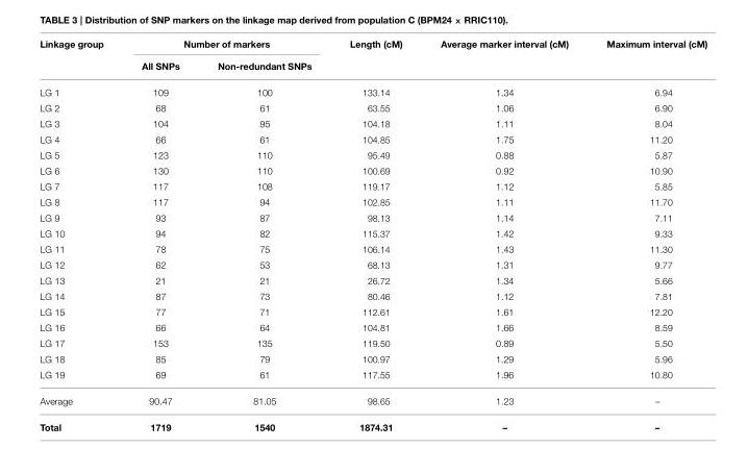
<table><thead><tr><td rowspan="2">Linkage group</td><td colspan="2">Number of markers</td><td rowspan="2">Length (cM)</td><td rowspan="2">Average marker interval (cM)</td><td rowspan="2">Maximum interval (cM)</td></tr><tr><td>All SNPs</td><td>Non-redundant SNPs</td></tr></thead><tbody><tr><td>LG 1</td><td>109</td><td>100</td><td>133.14</td><td>1.34</td><td>6.94</td></tr><tr><td>LG 2</td><td>68</td><td>61</td><td>63.55</td><td>1.06</td><td>6.90</td></tr><tr><td>LG 3</td><td>104</td><td>95</td><td>104.18</td><td>1.11</td><td>8.04</td></tr><tr><td>LG 4</td><td>66</td><td>61</td><td>104.85</td><td>1.75</td><td>11.20</td></tr><tr><td>LG 5</td><td>123</td><td>110</td><td>95.49</td><td>0.88</td><td>5.87</td></tr><tr><td>LG 6</td><td>130</td><td>110</td><td>100.69</td><td>0.92</td><td>10.90</td></tr><tr><td>LG 7</td><td>117</td><td>108</td><td>119.17</td><td>1.12</td><td>5.85</td></tr><tr><td>LG 8</td><td>117</td><td>94</td><td>102.85</td><td>1.11</td><td>11.70</td></tr><tr><td>LG 9</td><td>93</td><td>87</td><td>98.13</td><td>1.14</td><td>7.11</td></tr><tr><td>LG 10</td><td>94</td><td>82</td><td>115.37</td><td>1.42</td><td>9.33</td></tr><tr><td>LG 11</td><td>78</td><td>75</td><td>106.14</td><td>1.43</td><td>11.30</td></tr><tr><td>LG 12</td><td>62</td><td>53</td><td>68.13</td><td>1.31</td><td>9.77</td></tr><tr><td>LG 13</td><td>21</td><td>21</td><td>26.72</td><td>1.34</td><td>5.66</td></tr><tr><td>LG 14</td><td>87</td><td>73</td><td>80.46</td><td>1.12</td><td>7.81</td></tr><tr><td>LG 15</td><td>77</td><td>71</td><td>112.61</td><td>1.61</td><td>12.20</td></tr><tr><td>LG 16</td><td>66</td><td>64</td><td>104.81</td><td>1.66</td><td>8.59</td></tr><tr><td>LG 17</td><td>153</td><td>135</td><td>119.50</td><td>0.89</td><td>5.50</td></tr><tr><td>LG 18</td><td>85</td><td>79</td><td>100.97</td><td>1.29</td><td>5.96</td></tr><tr><td>LG 19</td><td>69</td><td>61</td><td>117.55</td><td>1.96</td><td>10.80</td></tr><tr><td>Average</td><td>90.47</td><td>81.05</td><td>98.65</td><td>1.23</td><td>–</td></tr><tr><td>Total</td><td>1719</td><td>1540</td><td>1874.31</td><td>–</td><td>–</td></tr></tbody></table>